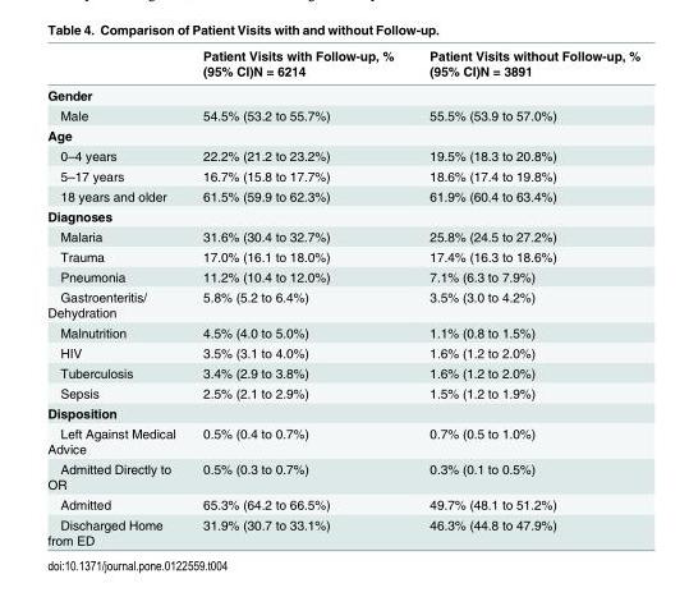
<table><thead><tr><td></td><td>Patient Visits with Follow-up, % (95% CI)N = 6214</td><td>Patient Visits without Follow-up, % (95% CI)N = 3891</td></tr></thead><tbody><tr><td colspan="3">Gender</td></tr><tr><td>Male</td><td>54.5% (53.2 to 55.7%)</td><td>55.5% (53.9 to 57.0%)</td></tr><tr><td colspan="3">Age</td></tr><tr><td>0–4 years</td><td>22.2% (21.2 to 23.2%)</td><td>19.5% (18.3 to 20.8%)</td></tr><tr><td>5–17 years</td><td>16.7% (15.8 to 17.7%)</td><td>18.6% (17.4 to 19.8%)</td></tr><tr><td>18 years and older</td><td>61.5% (59.9 to 62.3%)</td><td>61.9% (60.4 to 63.4%)</td></tr><tr><td colspan="3">Diagnoses</td></tr><tr><td>Malaria</td><td>31.6% (30.4 to 32.7%)</td><td>25.8% (24.5 to 27.2%)</td></tr><tr><td>Trauma</td><td>17.0% (16.1 to 18.0%)</td><td>17.4% (16.3 to 18.6%)</td></tr><tr><td>Pneumonia</td><td>11.2% (10.4 to 12.0%)</td><td>7.1% (6.3 to 7.9%)</td></tr><tr><td>Gastroenteritis/ Dehydration</td><td>5.8% (5.2 to 6.4%)</td><td>3.5% (3.0 to 4.2%)</td></tr><tr><td>Malnutrition</td><td>4.5% (4.0 to 5.0%)</td><td>1.1% (0.8 to 1.5%)</td></tr><tr><td>HIV</td><td>3.5% (3.1 to 4.0%)</td><td>1.6% (1.2 to 2.0%)</td></tr><tr><td>Tuberculosis</td><td>3.4% (2.9 to 3.8%)</td><td>1.6% (1.2 to 2.0%)</td></tr><tr><td>Sepsis</td><td>2.5% (2.1 to 2.9%)</td><td>1.5% (1.2 to 1.9%)</td></tr><tr><td colspan="3">Disposition</td></tr><tr><td>Left Against Medical Advice</td><td>0.5% (0.4 to 0.7%)</td><td>0.7% (0.5 to 1.0%)</td></tr><tr><td>Admitted Directly to OR</td><td>0.5% (0.3 to 0.7%)</td><td>0.3% (0.1 to 0.5%)</td></tr><tr><td>Admitted</td><td>65.3% (64.2 to 66.5%)</td><td>49.7% (48.1 to 51.2%)</td></tr><tr><td>Discharged Home from ED</td><td>31.9% (30.7 to 33.1%)</td><td>46.3% (44.8 to 47.9%)</td></tr></tbody></table>